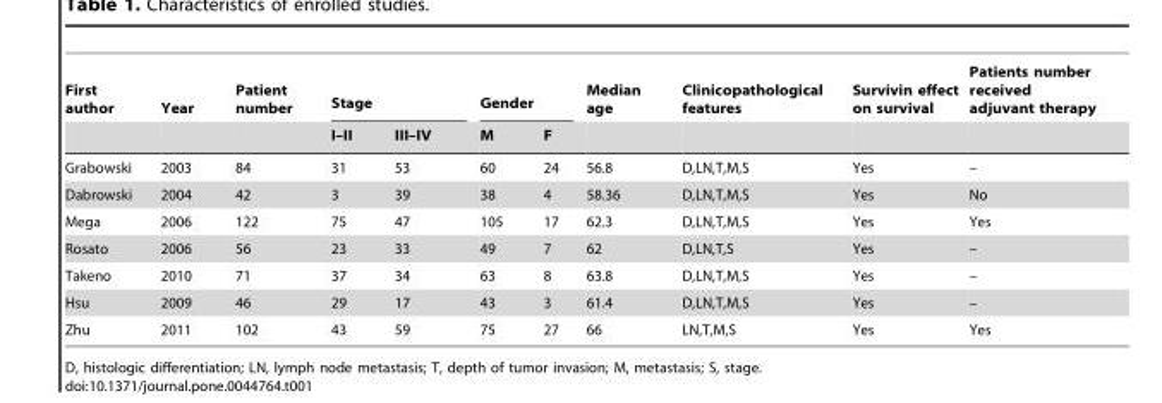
<table><thead><tr><td rowspan="2">First author</td><td rowspan="2">Year</td><td rowspan="2">Patient number</td><td colspan="2">Stage</td><td colspan="2">Gender</td><td rowspan="2">Median age</td><td rowspan="2">Clinicopathological features</td><td rowspan="2">Survivin effect on survival</td><td rowspan="2">Patients number received adjuvant therapy</td></tr><tr><td>I–II</td><td>III–IV</td><td>M</td><td>F</td></tr></thead><tbody><tr><td>Grabowski</td><td>2003</td><td>84</td><td>31</td><td>53</td><td>60</td><td>24</td><td>56.8</td><td>D,LN,T,M,S</td><td>Yes</td><td>–</td></tr><tr><td>Dabrowski</td><td>2004</td><td>42</td><td>3</td><td>39</td><td>38</td><td>4</td><td>58.36</td><td>D,LN,T,M,S</td><td>Yes</td><td>No</td></tr><tr><td>Mega</td><td>2006</td><td>122</td><td>75</td><td>47</td><td>105</td><td>17</td><td>62.3</td><td>D,LN,T,M,S</td><td>Yes</td><td>Yes</td></tr><tr><td>Rosato</td><td>2006</td><td>56</td><td>23</td><td>33</td><td>49</td><td>7</td><td>62</td><td>D,LN,T,S</td><td>Yes</td><td>–</td></tr><tr><td>Takeno</td><td>2010</td><td>71</td><td>37</td><td>34</td><td>63</td><td>8</td><td>63.8</td><td>D,LN,T,M,S</td><td>Yes</td><td>–</td></tr><tr><td>Hsu</td><td>2009</td><td>46</td><td>29</td><td>17</td><td>43</td><td>3</td><td>61.4</td><td>D,LN,T,M,S</td><td>Yes</td><td>–</td></tr><tr><td>Zhu</td><td>2011</td><td>102</td><td>43</td><td>59</td><td>75</td><td>27</td><td>66</td><td>LN,T,M,S</td><td>Yes</td><td>Yes</td></tr></tbody></table>